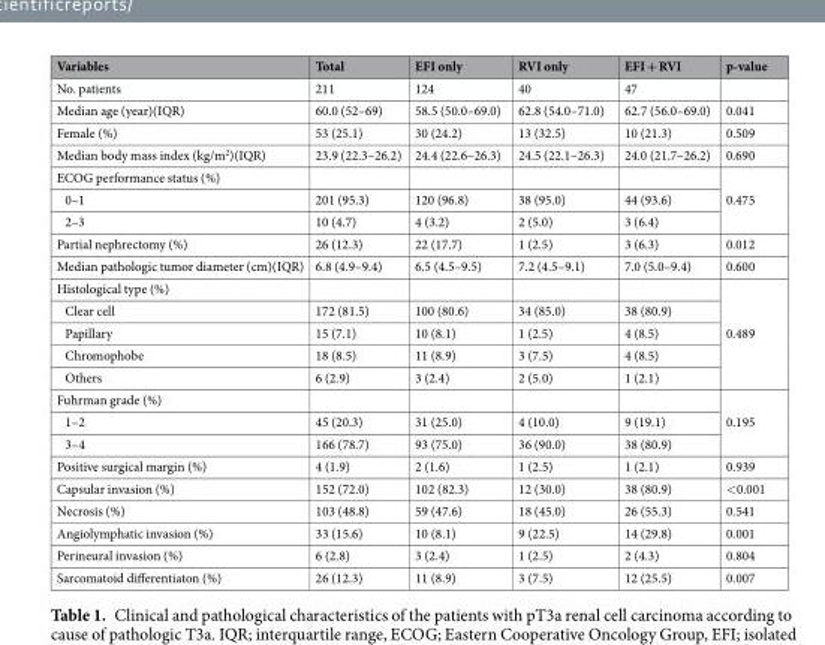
<table><thead><tr><td>Variables</td><td>Total</td><td>EFI only</td><td>RVI only</td><td>EFI + RVI</td><td>p-value</td></tr></thead><tbody><tr><td>No. patients</td><td>211</td><td>124</td><td>40</td><td>47</td><td></td></tr><tr><td>Median age (year)(IQR)</td><td>60.0 (52–69)</td><td>58.5 (50.0–69.0)</td><td>62.8 (54.0–71.0)</td><td>62.7 (56.0–69.0)</td><td>0.041</td></tr><tr><td>Female (%)</td><td>53 (25.1)</td><td>30 (24.2)</td><td>13 (32.5)</td><td>10 (21.3)</td><td>0.509</td></tr><tr><td>Median body mass index (kg/m<sup>2</sup>)(IQR)</td><td>23.9 (22.3–26.2)</td><td>24.4 (22.6–26.3)</td><td>24.5 (22.1–26.3)</td><td>24.0 (21.7–26.2)</td><td>0.690</td></tr><tr><td colspan="5">ECOG performance status (%)</td><td rowspan="3">0.475</td></tr><tr><td>0–1</td><td>201 (95.3)</td><td>120 (96.8)</td><td>38 (95.0)</td><td>44 (93.6)</td></tr><tr><td>2–3</td><td>10 (4.7)</td><td>4 (3.2)</td><td>2 (5.0)</td><td>3 (6.4)</td></tr><tr><td>Partial nephrectomy (%)</td><td>26 (12.3)</td><td>22 (17.7)</td><td>1 (2.5)</td><td>3 (6.3)</td><td>0.012</td></tr><tr><td>Median pathologic tumor diameter (cm)(IQR)</td><td>6.8 (4.9–9.4)</td><td>6.5 (4.5–9.5)</td><td>7.2 (4.5–9.1)</td><td>7.0 (5.0–9.4)</td><td>0.600</td></tr><tr><td colspan="5">Histological type (%)</td><td rowspan="5">0.489</td></tr><tr><td>Clear cell</td><td>172 (81.5)</td><td>100 (80.6)</td><td>34 (85.0)</td><td>38 (80.9)</td></tr><tr><td>Papillary</td><td>15 (7.1)</td><td>10 (8.1)</td><td>1 (2.5)</td><td>4 (8.5)</td></tr><tr><td>Chromophobe</td><td>18 (8.5)</td><td>11 (8.9)</td><td>3 (7.5)</td><td>4 (8.5)</td></tr><tr><td>Others</td><td>6 (2.9)</td><td>3 (2.4)</td><td>2 (5.0)</td><td>1 (2.1)</td></tr><tr><td colspan="5">Fuhrman grade (%)</td><td rowspan="3">0.195</td></tr><tr><td>1–2</td><td>45 (20.3)</td><td>31 (25.0)</td><td>4 (10.0)</td><td>9 (19.1)</td></tr><tr><td>3–4</td><td>166 (78.7)</td><td>93 (75.0)</td><td>36 (90.0)</td><td>38 (80.9)</td></tr><tr><td>Positive surgical margin (%)</td><td>4 (1.9)</td><td>2 (1.6)</td><td>1 (2.5)</td><td>1 (2.1)</td><td>0.939</td></tr><tr><td>Capsular invasion (%)</td><td>152 (72.0)</td><td>102 (82.3)</td><td>12 (30.0)</td><td>38 (80.9)</td><td>&lt;0.001</td></tr><tr><td>Necrosis (%)</td><td>103 (48.8)</td><td>59 (47.6)</td><td>18 (45.0)</td><td>26 (55.3)</td><td>0.541</td></tr><tr><td>Angiolymphatic invasion (%)</td><td>33 (15.6)</td><td>10 (8.1)</td><td>9 (22.5)</td><td>14 (29.8)</td><td>0.001</td></tr><tr><td>Perineural invasion (%)</td><td>6 (2.8)</td><td>3 (2.4)</td><td>1 (2.5)</td><td>2 (4.3)</td><td>0.804</td></tr><tr><td>Sarcomatoid differentiaton (%)</td><td>26 (12.3)</td><td>11 (8.9)</td><td>3 (7.5)</td><td>12 (25.5)</td><td>0.007</td></tr></tbody></table>